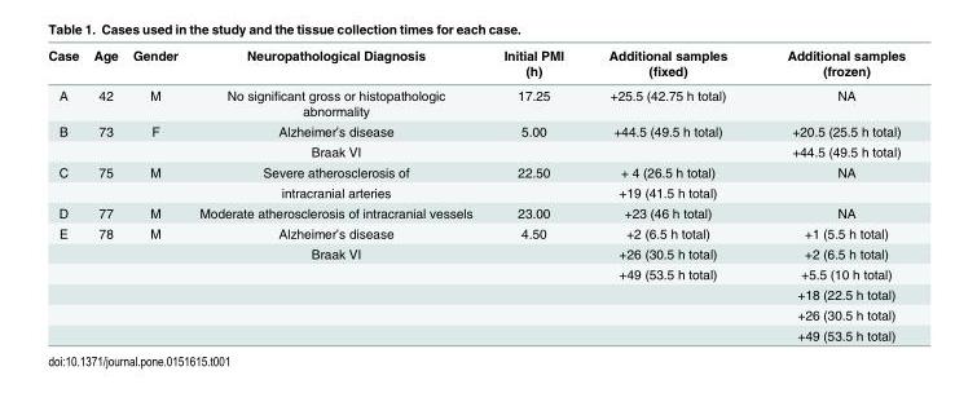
<table><thead><tr><td>Case</td><td>Age</td><td>Gender</td><td>Neuropathological Diagnosis</td><td>Initial PMI (h)</td><td>Additional samples (fixed)</td><td>Additional samples (frozen)</td></tr></thead><tbody><tr><td>A</td><td>42</td><td>M</td><td>No significant gross or histopathologic abnormality</td><td>17.25</td><td>+25.5 (42.75 h total)</td><td>NA</td></tr><tr><td rowspan="2">B</td><td>73</td><td>F</td><td>Alzheimer’s disease</td><td>5.00</td><td>+44.5 (49.5 h total)</td><td>+20.5 (25.5 h total)</td></tr><tr><td></td><td></td><td>Braak VI</td><td></td><td></td><td>+44.5 (49.5 h total)</td></tr><tr><td rowspan="2">C</td><td>75</td><td>M</td><td>Severe atherosclerosis of</td><td>22.50</td><td>+ 4 (26.5 h total)</td><td>NA</td></tr><tr><td></td><td></td><td>intracranial arteries</td><td></td><td>+19 (41.5 h total)</td><td></td></tr><tr><td>D</td><td>77</td><td>M</td><td>Moderate atherosclerosis of intracranial vessels</td><td>23.00</td><td>+23 (46 h total)</td><td>NA</td></tr><tr><td rowspan="6">E</td><td>78</td><td>M</td><td>Alzheimer’s disease</td><td>4.50</td><td>+2 (6.5 h total)</td><td>+1 (5.5 h total)</td></tr><tr><td></td><td></td><td>Braak VI</td><td></td><td>+26 (30.5 h total)</td><td>+2 (6.5 h total)</td></tr><tr><td></td><td></td><td></td><td></td><td>+49 (53.5 h total)</td><td>+5.5 (10 h total)</td></tr><tr><td></td><td></td><td></td><td></td><td></td><td>+18 (22.5 h total)</td></tr><tr><td></td><td></td><td></td><td></td><td></td><td>+26 (30.5 h total)</td></tr><tr><td></td><td></td><td></td><td></td><td></td><td>+49 (53.5 h total)</td></tr></tbody></table>